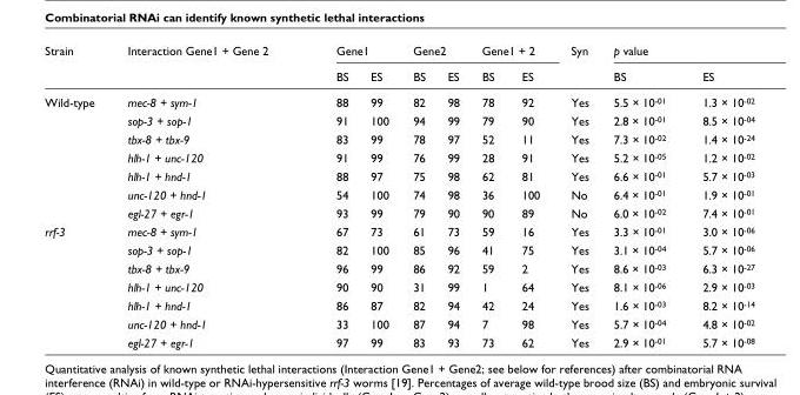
<table><thead><tr><td rowspan="2">Strain</td><td rowspan="2">Interaction Gene1 + Gene 2</td><td colspan="2">Gene1</td><td colspan="2">Gene2</td><td colspan="2">Gene1 + 2</td><td rowspan="2">Syn</td><td colspan="2">p value</td></tr><tr><td>BS</td><td>ES</td><td>BS</td><td>ES</td><td>BS</td><td>ES</td><td>BS</td><td>ES</td></tr></thead><tbody><tr><td rowspan="7">Wild-type</td><td>mec-8 + sym-1</td><td>88</td><td>99</td><td>82</td><td>98</td><td>78</td><td>92</td><td>Yes</td><td>5.5 × 10-01</td><td>1.3 × 10-02</td></tr><tr><td>sop-3 + sop-1</td><td>91</td><td>100</td><td>94</td><td>99</td><td>79</td><td>90</td><td>Yes</td><td>2.8 × 10-01</td><td>8.5 × 10-04</td></tr><tr><td>tbx-8 + tbx-9</td><td>83</td><td>99</td><td>78</td><td>97</td><td>52</td><td>11</td><td>Yes</td><td>7.3 × 10-02</td><td>1.4 × 10-24</td></tr><tr><td>hlh-1 + unc-120</td><td>91</td><td>99</td><td>76</td><td>99</td><td>28</td><td>91</td><td>Yes</td><td>5.2 × 10-05</td><td>1.2 × 10-02</td></tr><tr><td>hlh-1 + hnd-1</td><td>88</td><td>97</td><td>75</td><td>98</td><td>62</td><td>81</td><td>Yes</td><td>6.6 × 10-01</td><td>5.7 × 10-03</td></tr><tr><td>unc-120 + hnd-1</td><td>54</td><td>100</td><td>74</td><td>98</td><td>36</td><td>100</td><td>No</td><td>6.4 × 10-01</td><td>1.9 × 10-01</td></tr><tr><td>egl-27 + egr-1</td><td>93</td><td>99</td><td>79</td><td>90</td><td>90</td><td>89</td><td>No</td><td>6.0 × 10-02</td><td>7.4 × 10-01</td></tr><tr><td rowspan="7">rrf-3</td><td>mec-8 + sym-1</td><td>67</td><td>73</td><td>61</td><td>73</td><td>59</td><td>16</td><td>Yes</td><td>3.3 × 10-01</td><td>3.0 × 10-06</td></tr><tr><td>sop-3 + sop-1</td><td>82</td><td>100</td><td>85</td><td>96</td><td>41</td><td>75</td><td>Yes</td><td>3.1 × 10-04</td><td>5.7 × 10-06</td></tr><tr><td>tbx-8 + tbx-9</td><td>96</td><td>99</td><td>86</td><td>92</td><td>59</td><td>2</td><td>Yes</td><td>8.6 × 10-03</td><td>6.3 × 10-27</td></tr><tr><td>hlh-1 + unc-120</td><td>90</td><td>90</td><td>31</td><td>99</td><td>1</td><td>64</td><td>Yes</td><td>8.1 × 10-06</td><td>2.9 × 10-03</td></tr><tr><td>hlh-1 + hnd-1</td><td>86</td><td>87</td><td>82</td><td>94</td><td>42</td><td>24</td><td>Yes</td><td>1.6 × 10-03</td><td>8.2 × 10-14</td></tr><tr><td>unc-120 + hnd-1</td><td>33</td><td>100</td><td>87</td><td>94</td><td>7</td><td>98</td><td>Yes</td><td>5.7 × 10-04</td><td>4.8 × 10-02</td></tr><tr><td>egl-27 + egr-1</td><td>97</td><td>99</td><td>83</td><td>93</td><td>73</td><td>62</td><td>Yes</td><td>2.9 × 10-01</td><td>5.7 × 10-08</td></tr></tbody></table>